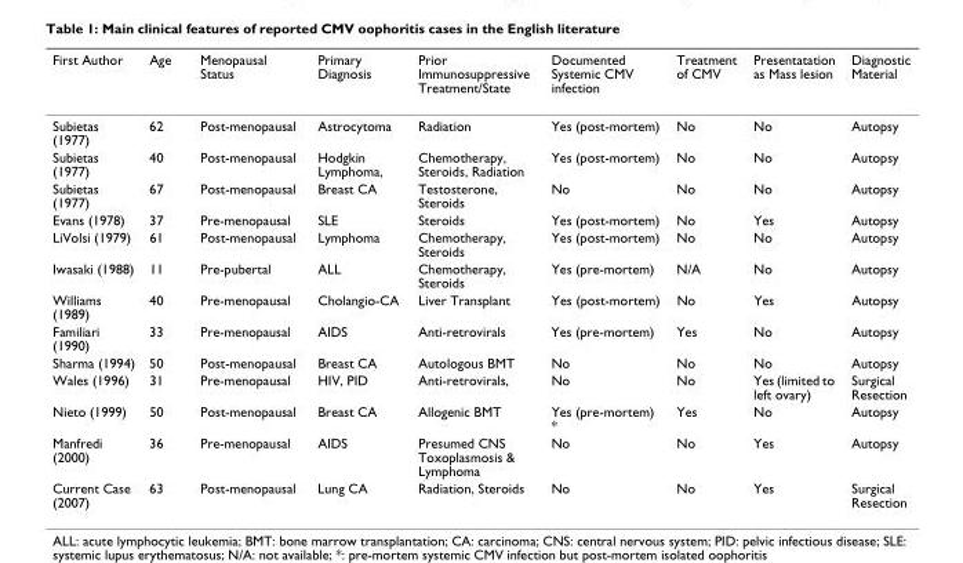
<table><thead><tr><td>First Author</td><td>Age</td><td>Menopausal Status</td><td>Primary Diagnosis</td><td>Prior Immunosuppressive Treatment/State</td><td>Documented Systemic CMV infection</td><td>Treatment of CMV</td><td>Presentatation as Mass lesion</td><td>Diagnostic Material</td></tr></thead><tbody><tr><td>Subietas (1977)</td><td>62</td><td>Post-menopausal</td><td>Astrocytoma</td><td>Radiation</td><td>Yes (post-mortem)</td><td>No</td><td>No</td><td>Autopsy</td></tr><tr><td>Subietas (1977)</td><td>40</td><td>Post-menopausal</td><td>Hodgkin Lymphoma,</td><td>Chemotherapy, Steroids, Radiation</td><td>Yes (post-mortem)</td><td>No</td><td>No</td><td>Autopsy</td></tr><tr><td>Subietas (1977)</td><td>67</td><td>Post-menopausal</td><td>Breast CA</td><td>Testosterone, Steroids</td><td>No</td><td>No</td><td>No</td><td>Autopsy</td></tr><tr><td>Evans (1978)</td><td>37</td><td>Pre-menopausal</td><td>SLE</td><td>Steroids</td><td>Yes (post-mortem)</td><td>No</td><td>Yes</td><td>Autopsy</td></tr><tr><td>LiVolsi (1979)</td><td>61</td><td>Post-menopausal</td><td>Lymphoma</td><td>Chemotherapy, Steroids</td><td>Yes (post-mortem)</td><td>No</td><td>No</td><td>Autopsy</td></tr><tr><td>Iwasaki (1988)</td><td>11</td><td>Pre-pubertal</td><td>ALL</td><td>Chemotherapy, Steroids</td><td>Yes (pre-mortem)</td><td>N/A</td><td>No</td><td>Autopsy</td></tr><tr><td>Williams (1989)</td><td>40</td><td>Pre-menopausal</td><td>Cholangio-CA</td><td>Liver Transplant</td><td>Yes (post-mortem)</td><td>No</td><td>Yes</td><td>Autopsy</td></tr><tr><td>Familiari (1990)</td><td>33</td><td>Pre-menopausal</td><td>AIDS</td><td>Anti-retrovirals</td><td>Yes (pre-mortem)</td><td>Yes</td><td>No</td><td>Autopsy</td></tr><tr><td>Sharma (1994)</td><td>50</td><td>Post-menopausal</td><td>Breast CA</td><td>Autologous BMT</td><td>No</td><td>No</td><td>No</td><td>Autopsy</td></tr><tr><td>Wales (1996)</td><td>31</td><td>Pre-menopausal</td><td>HIV, PID</td><td>Anti-retrovirals,</td><td>No</td><td>No</td><td>Yes (limited to left ovary)</td><td>Surgical Resection</td></tr><tr><td>Nieto (1999)</td><td>50</td><td>Post-menopausal</td><td>Breast CA</td><td>Allogenic BMT</td><td>Yes (pre-mortem) *</td><td>Yes</td><td>No</td><td>Autopsy</td></tr><tr><td>Manfredi (2000)</td><td>36</td><td>Pre-menopausal</td><td>AIDS</td><td>Presumed CNS Toxoplasmosis &amp; Lymphoma</td><td>No</td><td>No</td><td>Yes</td><td>Autopsy</td></tr><tr><td>Current Case (2007)</td><td>63</td><td>Post-menopausal</td><td>Lung CA</td><td>Radiation, Steroids</td><td>No</td><td>No</td><td>Yes</td><td>Surgical Resection</td></tr></tbody></table>